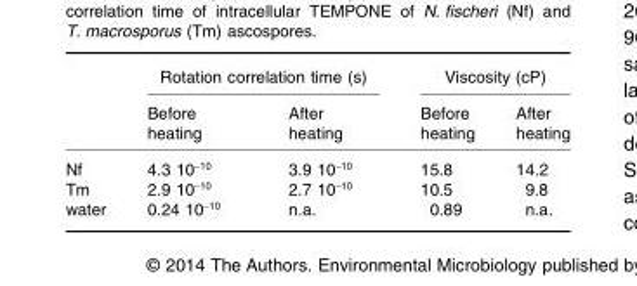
<table><thead><tr><td rowspan="2"></td><td colspan="2">Rotation correlation time (s)</td><td colspan="2">Viscosity (cP)</td></tr><tr><td>Before heating</td><td>After heating</td><td>Before heating</td><td>After heating</td></tr></thead><tbody><tr><td>Nf</td><td>4.3 10<sup>−10</sup></td><td>3.9 10<sup>−10</sup></td><td>15.8</td><td>14.2</td></tr><tr><td>Tm</td><td>2.9 10<sup>−10</sup></td><td>2.7 10<sup>−10</sup></td><td>10.5</td><td>9.8</td></tr><tr><td>water</td><td>0.24 10<sup>−10</sup></td><td>n.a.</td><td>0.89</td><td>n.a.</td></tr></tbody></table>